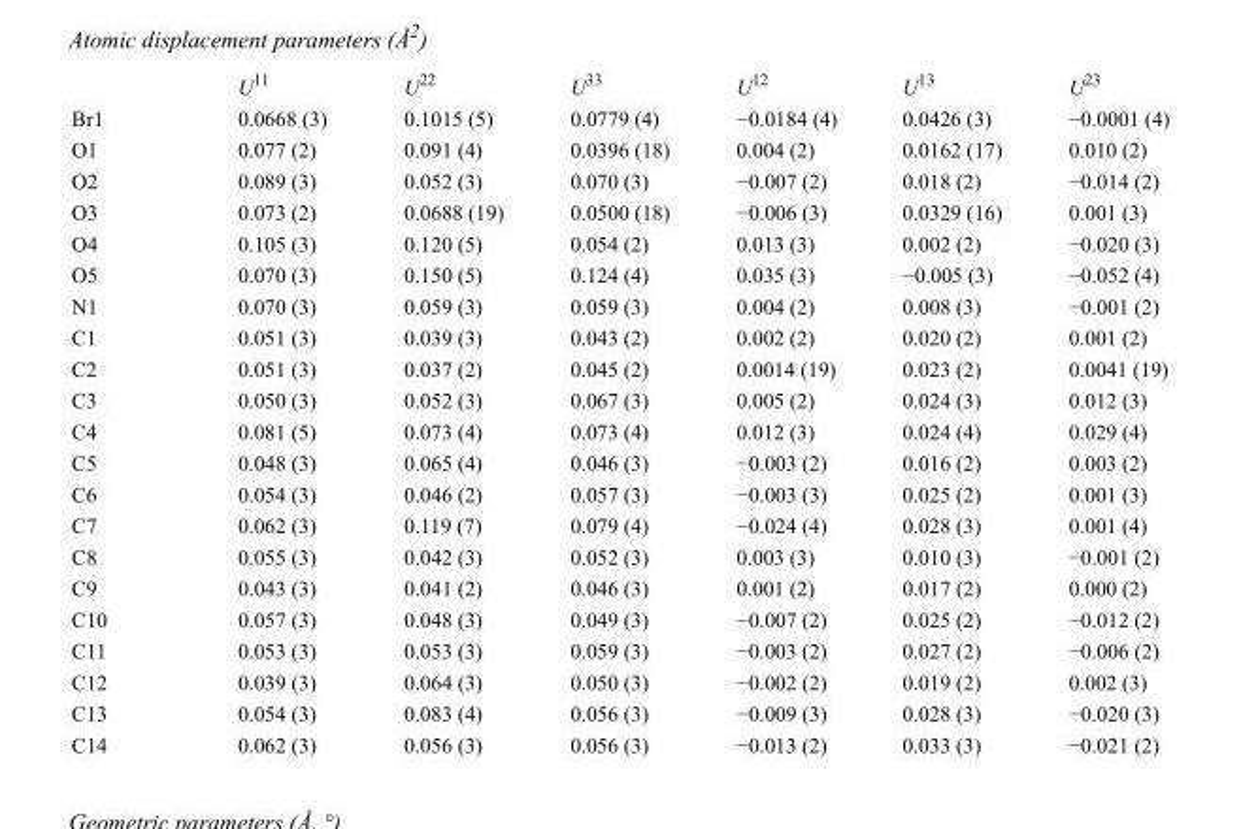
<table><thead><tr><td></td><td>U<sup>11</sup></td><td>U<sup>22</sup></td><td>U<sup>33</sup></td><td>U<sup>12</sup></td><td>U<sup>13</sup></td><td>U<sup>23</sup></td></tr></thead><tbody><tr><td>Br1</td><td>0.0668 (3)</td><td>0.1015 (5)</td><td>0.0779 (4)</td><td>−0.0184 (4)</td><td>0.0426 (3)</td><td>−0.0001 (4)</td></tr><tr><td>O1</td><td>0.077 (2)</td><td>0.091 (4)</td><td>0.0396 (18)</td><td>0.004 (2)</td><td>0.0162 (17)</td><td>0.010 (2)</td></tr><tr><td>O2</td><td>0.089 (3)</td><td>0.052 (3)</td><td>0.070 (3)</td><td>−0.007 (2)</td><td>0.018 (2)</td><td>−0.014 (2)</td></tr><tr><td>O3</td><td>0.073 (2)</td><td>0.0688 (19)</td><td>0.0500 (18)</td><td>−0.006 (3)</td><td>0.0329 (16)</td><td>0.001 (3)</td></tr><tr><td>O4</td><td>0.105 (3)</td><td>0.120 (5)</td><td>0.054 (2)</td><td>0.013 (3)</td><td>0.002 (2)</td><td>−0.020 (3)</td></tr><tr><td>O5</td><td>0.070 (3)</td><td>0.150 (5)</td><td>0.124 (4)</td><td>0.035 (3)</td><td>−0.005 (3)</td><td>−0.052 (4)</td></tr><tr><td>N1</td><td>0.070 (3)</td><td>0.059 (3)</td><td>0.059 (3)</td><td>0.004 (2)</td><td>0.008 (3)</td><td>−0.001 (2)</td></tr><tr><td>C1</td><td>0.051 (3)</td><td>0.039 (3)</td><td>0.043 (2)</td><td>0.002 (2)</td><td>0.020 (2)</td><td>0.001 (2)</td></tr><tr><td>C2</td><td>0.051 (3)</td><td>0.037 (2)</td><td>0.045 (2)</td><td>0.0014 (19)</td><td>0.023 (2)</td><td>0.0041 (19)</td></tr><tr><td>C3</td><td>0.050 (3)</td><td>0.052 (3)</td><td>0.067 (3)</td><td>0.005 (2)</td><td>0.024 (3)</td><td>0.012 (3)</td></tr><tr><td>C4</td><td>0.081 (5)</td><td>0.073 (4)</td><td>0.073 (4)</td><td>0.012 (3)</td><td>0.024 (4)</td><td>0.029 (4)</td></tr><tr><td>C5</td><td>0.048 (3)</td><td>0.065 (4)</td><td>0.046 (3)</td><td>−0.003 (2)</td><td>0.016 (2)</td><td>0.003 (2)</td></tr><tr><td>C6</td><td>0.054 (3)</td><td>0.046 (2)</td><td>0.057 (3)</td><td>−0.003 (3)</td><td>0.025 (2)</td><td>0.001 (3)</td></tr><tr><td>C7</td><td>0.062 (3)</td><td>0.119 (7)</td><td>0.079 (4)</td><td>−0.024 (4)</td><td>0.028 (3)</td><td>0.001 (4)</td></tr><tr><td>C8</td><td>0.055 (3)</td><td>0.042 (3)</td><td>0.052 (3)</td><td>0.003 (3)</td><td>0.010 (3)</td><td>−0.001 (2)</td></tr><tr><td>C9</td><td>0.043 (3)</td><td>0.041 (2)</td><td>0.046 (3)</td><td>0.001 (2)</td><td>0.017 (2)</td><td>0.000 (2)</td></tr><tr><td>C10</td><td>0.057 (3)</td><td>0.048 (3)</td><td>0.049 (3)</td><td>−0.007 (2)</td><td>0.025 (2)</td><td>−0.012 (2)</td></tr><tr><td>C11</td><td>0.053 (3)</td><td>0.053 (3)</td><td>0.059 (3)</td><td>−0.003 (2)</td><td>0.027 (2)</td><td>−0.006 (2)</td></tr><tr><td>C12</td><td>0.039 (3)</td><td>0.064 (3)</td><td>0.050 (3)</td><td>−0.002 (2)</td><td>0.019 (2)</td><td>0.002 (3)</td></tr><tr><td>C13</td><td>0.054 (3)</td><td>0.083 (4)</td><td>0.056 (3)</td><td>−0.009 (3)</td><td>0.028 (3)</td><td>−0.020 (3)</td></tr><tr><td>C14</td><td>0.062 (3)</td><td>0.056 (3)</td><td>0.056 (3)</td><td>−0.013 (2)</td><td>0.033 (3)</td><td>−0.021 (2)</td></tr></tbody></table>